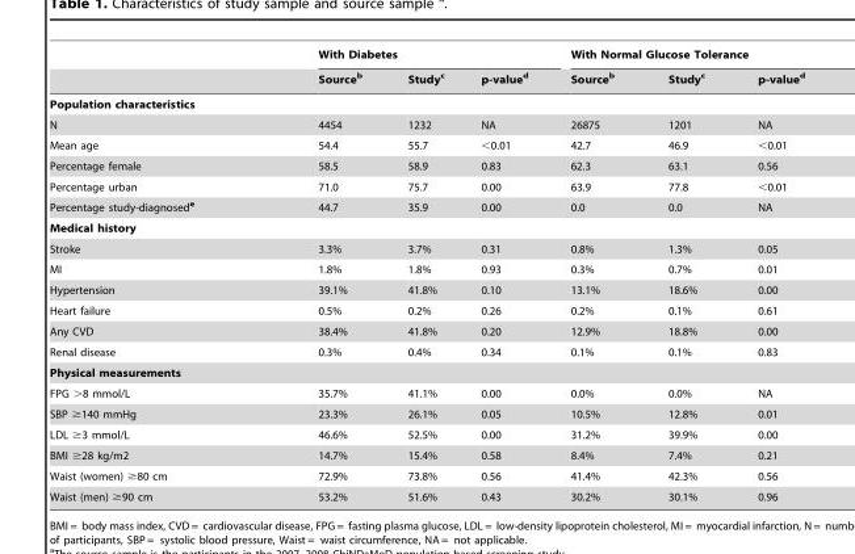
<table><thead><tr><td rowspan="2"></td><td colspan="3">With Diabetes</td><td colspan="3">With Normal Glucose Tolerance</td></tr><tr><td>Source<sup>b</sup></td><td>Study<sup>c</sup></td><td>p-value<sup>d</sup></td><td>Source<sup>b</sup></td><td>Study<sup>c</sup></td><td>p-value<sup>d</sup></td></tr></thead><tbody><tr><td colspan="7">Population characteristics</td></tr><tr><td>N</td><td>4454</td><td>1232</td><td>NA</td><td>26875</td><td>1201</td><td>NA</td></tr><tr><td>Mean age</td><td>54.4</td><td>55.7</td><td>&lt;0.01</td><td>42.7</td><td>46.9</td><td>&lt;0.01</td></tr><tr><td>Percentage female</td><td>58.5</td><td>58.9</td><td>0.83</td><td>62.3</td><td>63.1</td><td>0.56</td></tr><tr><td>Percentage urban</td><td>71.0</td><td>75.7</td><td>0.00</td><td>63.9</td><td>77.8</td><td>&lt;0.01</td></tr><tr><td>Percentage study-diagnosed<sup>e</sup></td><td>44.7</td><td>35.9</td><td>0.00</td><td>0.0</td><td>0.0</td><td>NA</td></tr><tr><td colspan="7">Medical history</td></tr><tr><td>Stroke</td><td>3.3%</td><td>3.7%</td><td>0.31</td><td>0.8%</td><td>1.3%</td><td>0.05</td></tr><tr><td>MI</td><td>1.8%</td><td>1.8%</td><td>0.93</td><td>0.3%</td><td>0.7%</td><td>0.01</td></tr><tr><td>Hypertension</td><td>39.1%</td><td>41.8%</td><td>0.10</td><td>13.1%</td><td>18.6%</td><td>0.00</td></tr><tr><td>Heart failure</td><td>0.5%</td><td>0.2%</td><td>0.26</td><td>0.2%</td><td>0.1%</td><td>0.61</td></tr><tr><td>Any CVD</td><td>38.4%</td><td>41.8%</td><td>0.20</td><td>12.9%</td><td>18.8%</td><td>0.00</td></tr><tr><td>Renal disease</td><td>0.3%</td><td>0.4%</td><td>0.34</td><td>0.1%</td><td>0.1%</td><td>0.83</td></tr><tr><td colspan="7">Physical measurements</td></tr><tr><td>FPG &gt;8 mmol/L</td><td>35.7%</td><td>41.1%</td><td>0.00</td><td>0.0%</td><td>0.0%</td><td>NA</td></tr><tr><td>SBP ≥140 mmHg</td><td>23.3%</td><td>26.1%</td><td>0.05</td><td>10.5%</td><td>12.8%</td><td>0.01</td></tr><tr><td>LDL ≥3 mmol/L</td><td>46.6%</td><td>52.5%</td><td>0.00</td><td>31.2%</td><td>39.9%</td><td>0.00</td></tr><tr><td>BMI ≥28 kg/m2</td><td>14.7%</td><td>15.4%</td><td>0.58</td><td>8.4%</td><td>7.4%</td><td>0.21</td></tr><tr><td>Waist (women) ≥80 cm</td><td>72.9%</td><td>73.8%</td><td>0.56</td><td>41.4%</td><td>42.3%</td><td>0.56</td></tr><tr><td>Waist (men) ≥90 cm</td><td>53.2%</td><td>51.6%</td><td>0.43</td><td>30.2%</td><td>30.1%</td><td>0.96</td></tr></tbody></table>